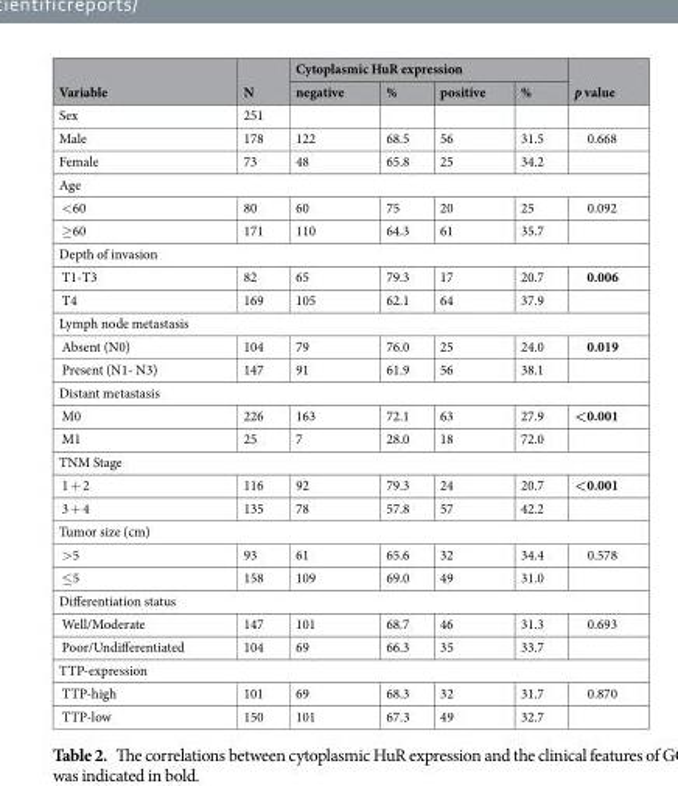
<table><thead><tr><td rowspan="2">Variable</td><td rowspan="2">N</td><td colspan="4">Cytoplasmic HuR expression</td><td rowspan="2">p value</td></tr><tr><td>negative</td><td>%</td><td>positive</td><td>%</td></tr></thead><tbody><tr><td>Sex</td><td>251</td><td></td><td></td><td></td><td></td><td></td></tr><tr><td>Male</td><td>178</td><td>122</td><td>68.5</td><td>56</td><td>31.5</td><td>0.668</td></tr><tr><td>Female</td><td>73</td><td>48</td><td>65.8</td><td>25</td><td>34.2</td><td></td></tr><tr><td colspan="7">Age</td></tr><tr><td>&lt;60</td><td>80</td><td>60</td><td>75</td><td>20</td><td>25</td><td>0.092</td></tr><tr><td>≥60</td><td>171</td><td>110</td><td>64.3</td><td>61</td><td>35.7</td><td></td></tr><tr><td colspan="7">Depth of invasion</td></tr><tr><td>T1-T3</td><td>82</td><td>65</td><td>79.3</td><td>17</td><td>20.7</td><td>0.006</td></tr><tr><td>T4</td><td>169</td><td>105</td><td>62.1</td><td>64</td><td>37.9</td><td></td></tr><tr><td colspan="7">Lymph node metastasis</td></tr><tr><td>Absent (N0)</td><td>104</td><td>79</td><td>76.0</td><td>25</td><td>24.0</td><td>0.019</td></tr><tr><td>Present (N1- N3)</td><td>147</td><td>91</td><td>61.9</td><td>56</td><td>38.1</td><td></td></tr><tr><td colspan="7">Distant metastasis</td></tr><tr><td>M0</td><td>226</td><td>163</td><td>72.1</td><td>63</td><td>27.9</td><td>&lt;0.001</td></tr><tr><td>M1</td><td>25</td><td>7</td><td>28.0</td><td>18</td><td>72.0</td><td></td></tr><tr><td colspan="7">TNM Stage</td></tr><tr><td>1 + 2</td><td>116</td><td>92</td><td>79.3</td><td>24</td><td>20.7</td><td>&lt;0.001</td></tr><tr><td>3 + 4</td><td>135</td><td>78</td><td>57.8</td><td>57</td><td>42.2</td><td></td></tr><tr><td colspan="7">Tumor size (cm)</td></tr><tr><td>&gt;5</td><td>93</td><td>61</td><td>65.6</td><td>32</td><td>34.4</td><td>0.578</td></tr><tr><td>≤5</td><td>158</td><td>109</td><td>69.0</td><td>49</td><td>31.0</td><td></td></tr><tr><td colspan="7">Differentiation status</td></tr><tr><td>Well/Moderate</td><td>147</td><td>101</td><td>68.7</td><td>46</td><td>31.3</td><td>0.693</td></tr><tr><td>Poor/Undifferentiated</td><td>104</td><td>69</td><td>66.3</td><td>35</td><td>33.7</td><td></td></tr><tr><td colspan="7">TTP-expression</td></tr><tr><td>TTP-high</td><td>101</td><td>69</td><td>68.3</td><td>32</td><td>31.7</td><td>0.870</td></tr><tr><td>TTP-low</td><td>150</td><td>101</td><td>67.3</td><td>49</td><td>32.7</td><td></td></tr></tbody></table>